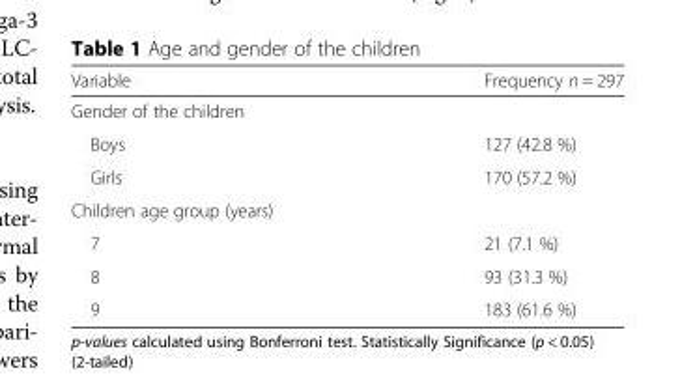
<table><thead><tr><td>Variable</td><td>Frequency n = 297</td></tr></thead><tbody><tr><td colspan="2">Gender of the children</td></tr><tr><td>Boys</td><td>127 (42.8 %)</td></tr><tr><td>Girls</td><td>170 (57.2 %)</td></tr><tr><td colspan="2">Children age group (years)</td></tr><tr><td>7</td><td>21 (7.1 %)</td></tr><tr><td>8</td><td>93 (31.3 %)</td></tr><tr><td>9</td><td>183 (61.6 %)</td></tr></tbody></table>